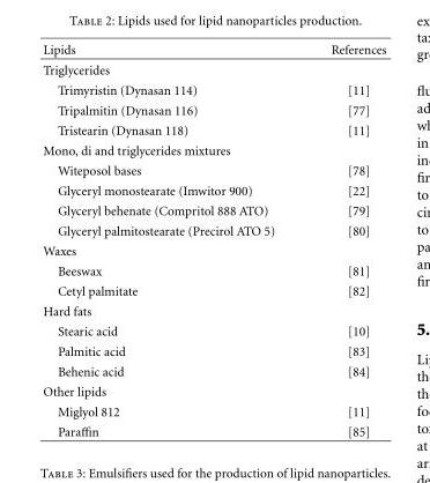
<table><thead><tr><td>Lipids</td><td>References</td></tr></thead><tbody><tr><td colspan="2">Triglycerides</td></tr><tr><td>Trimyristin (Dynasan 114)</td><td>[11]</td></tr><tr><td>Tripalmitin (Dynasan 116)</td><td>[77]</td></tr><tr><td>Tristearin (Dynasan 118)</td><td>[11]</td></tr><tr><td colspan="2">Mono, di and triglycerides mixtures</td></tr><tr><td>Witeposol bases</td><td>[78]</td></tr><tr><td>Glyceryl monostearate (Imwitor 900)</td><td>[22]</td></tr><tr><td>Glyceryl behenate (Compritol 888 ATO)</td><td>[79]</td></tr><tr><td>Glyceryl palmitostearate (Precirol ATO 5)</td><td>[80]</td></tr><tr><td colspan="2">Waxes</td></tr><tr><td>Beeswax</td><td>[81]</td></tr><tr><td>Cetyl palmitate</td><td>[82]</td></tr><tr><td colspan="2">Hard fats</td></tr><tr><td>Stearic acid</td><td>[10]</td></tr><tr><td>Palmitic acid</td><td>[83]</td></tr><tr><td>Behenic acid</td><td>[84]</td></tr><tr><td colspan="2">Other lipids</td></tr><tr><td>Miglyol 812</td><td>[11]</td></tr><tr><td>Paraffin</td><td>[85]</td></tr></tbody></table>